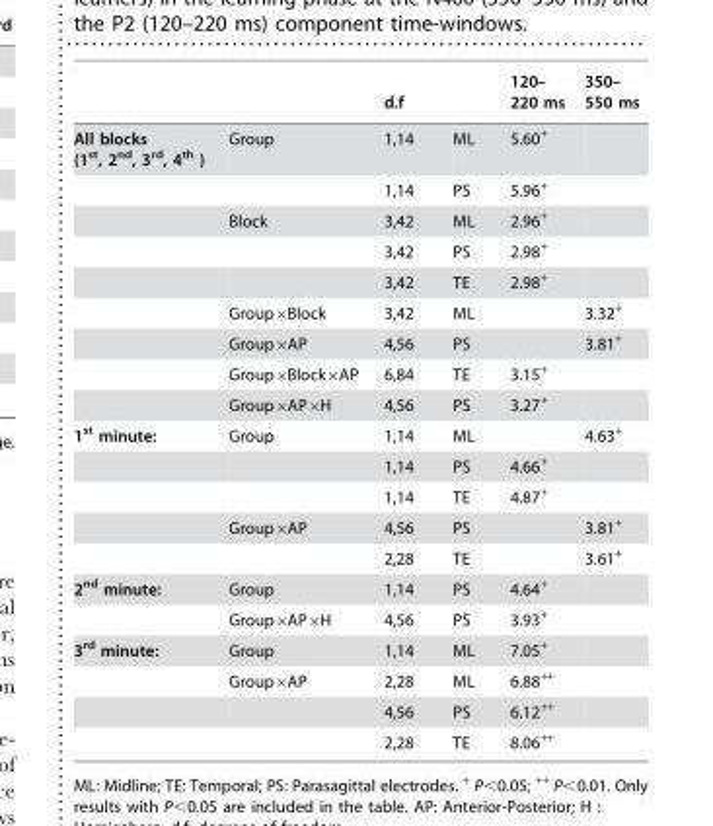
<table><thead><tr><td></td><td></td><td>d.f</td><td></td><td>120– 220 ms</td><td>350– 550 ms</td></tr></thead><tbody><tr><td rowspan="9">All blocks (1<sup>st</sup>, 2<sup>nd</sup>, 3<sup>rd</sup>, 4<sup>th</sup> )</td><td>Group</td><td>1,14</td><td>ML</td><td>5.60+</td><td></td></tr><tr><td></td><td>1,14</td><td>PS</td><td>5.96+</td><td></td></tr><tr><td>Block</td><td>3,42</td><td>ML</td><td>2.96+</td><td></td></tr><tr><td></td><td>3,42</td><td>PS</td><td>2.98+</td><td></td></tr><tr><td></td><td>3,42</td><td>TE</td><td>2.98+</td><td></td></tr><tr><td>Group×Block</td><td>3,42</td><td>ML</td><td></td><td>3.32+</td></tr><tr><td>Group×AP</td><td>4,56</td><td>PS</td><td></td><td>3.81+</td></tr><tr><td>Group×Block×AP</td><td>6,84</td><td>TE</td><td>3.15+</td><td></td></tr><tr><td>Group×AP×H</td><td>4,56</td><td>PS</td><td>3.27+</td><td></td></tr><tr><td rowspan="5">1<sup>st</sup> minute:</td><td>Group</td><td>1,14</td><td>ML</td><td></td><td>4.63+</td></tr><tr><td></td><td>1,14</td><td>PS</td><td>4.66+</td><td></td></tr><tr><td></td><td>1,14</td><td>TE</td><td>4.87+</td><td></td></tr><tr><td>Group×AP</td><td>4,56</td><td>PS</td><td></td><td>3.81+</td></tr><tr><td></td><td>2,28</td><td>TE</td><td></td><td>3.61+</td></tr><tr><td rowspan="2">2<sup>nd</sup> minute:</td><td>Group</td><td>1,14</td><td>PS</td><td>4.64+</td><td></td></tr><tr><td>Group×AP×H</td><td>4,56</td><td>PS</td><td>3.93+</td><td></td></tr><tr><td rowspan="4">3<sup>rd</sup> minute:</td><td>Group</td><td>1,14</td><td>ML</td><td>7.05+</td><td></td></tr><tr><td>Group×AP</td><td>2,28</td><td>ML</td><td>6.88++</td><td></td></tr><tr><td></td><td>4,56</td><td>PS</td><td>6.12++</td><td></td></tr><tr><td></td><td>2,28</td><td>TE</td><td>8.06++</td><td></td></tr></tbody></table>